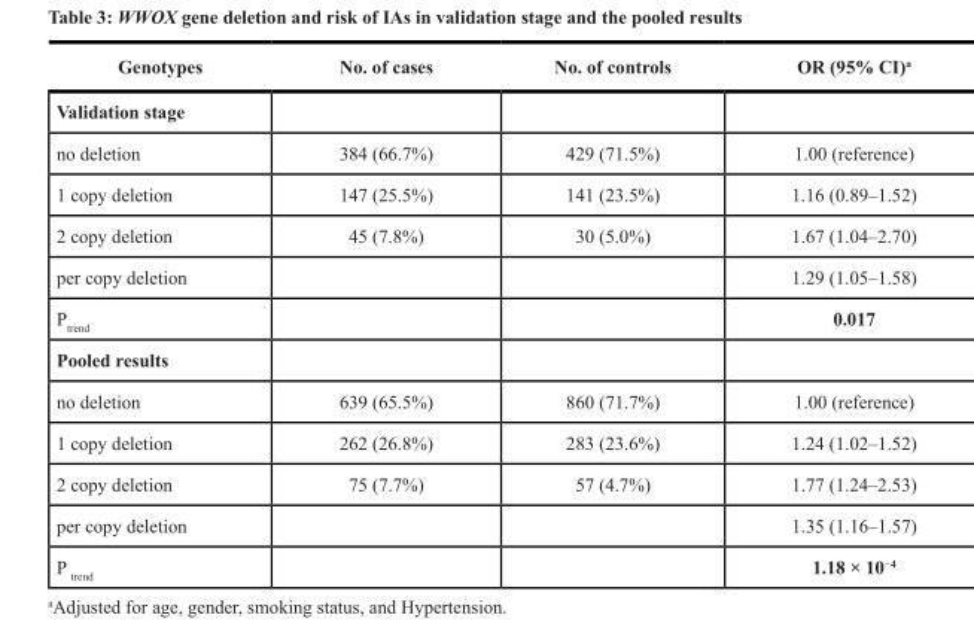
<table><thead><tr><td>Genotypes</td><td>No. of cases</td><td>No. of controls</td><td>OR (95% CI)<sup>a</sup></td></tr></thead><tbody><tr><td colspan="4">Validation stage</td></tr><tr><td>no deletion</td><td>384 (66.7%)</td><td>429 (71.5%)</td><td>1.00 (reference)</td></tr><tr><td>1 copy deletion</td><td>147 (25.5%)</td><td>141 (23.5%)</td><td>1.16 (0.89–1.52)</td></tr><tr><td>2 copy deletion</td><td>45 (7.8%)</td><td>30 (5.0%)</td><td>1.67 (1.04–2.70)</td></tr><tr><td>per copy deletion</td><td></td><td></td><td>1.29 (1.05–1.58)</td></tr><tr><td>P<sub>trend</sub></td><td></td><td></td><td>0.017</td></tr><tr><td colspan="4">Pooled results</td></tr><tr><td>no deletion</td><td>639 (65.5%)</td><td>860 (71.7%)</td><td>1.00 (reference)</td></tr><tr><td>1 copy deletion</td><td>262 (26.8%)</td><td>283 (23.6%)</td><td>1.24 (1.02–1.52)</td></tr><tr><td>2 copy deletion</td><td>75 (7.7%)</td><td>57 (4.7%)</td><td>1.77 (1.24–2.53)</td></tr><tr><td>per copy deletion</td><td></td><td></td><td>1.35 (1.16–1.57)</td></tr><tr><td>P <sub>trend</sub></td><td></td><td></td><td>1.18 × 10<sup>−4</sup></td></tr></tbody></table>